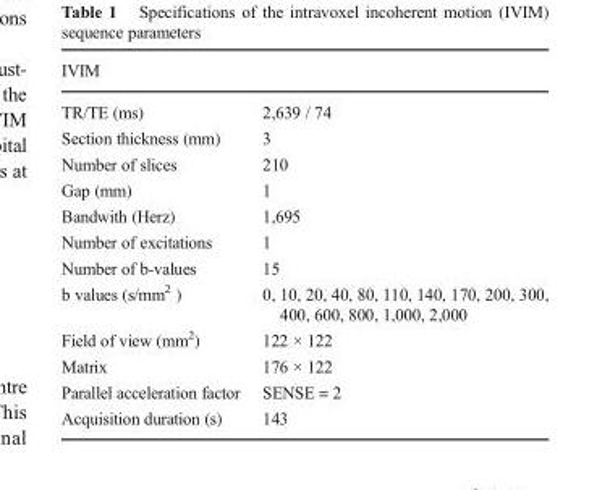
<table><thead><tr><td colspan="2">IVIM</td></tr><tr><td>TR/TE (ms)</td><td>2,639 / 74</td></tr></thead><tbody><tr><td>Section thickness (mm)</td><td>3</td></tr><tr><td>Number of slices</td><td>210</td></tr><tr><td>Gap (mm)</td><td>1</td></tr><tr><td>Bandwith (Herz)</td><td>1,695</td></tr><tr><td>Number of excitations</td><td>1</td></tr><tr><td>Number of b-values</td><td>15</td></tr><tr><td>b values (s/mm<sup>2</sup> )</td><td>0, 10, 20, 40, 80, 110, 140, 170, 200, 300, 400, 600, 800, 1,000, 2,000</td></tr><tr><td>Field of view (mm<sup>2</sup>)</td><td>122 × 122</td></tr><tr><td>Matrix</td><td>176 × 122</td></tr><tr><td>Parallel acceleration factor</td><td>SENSE = 2</td></tr><tr><td>Acquisition duration (s)</td><td>143</td></tr></tbody></table>